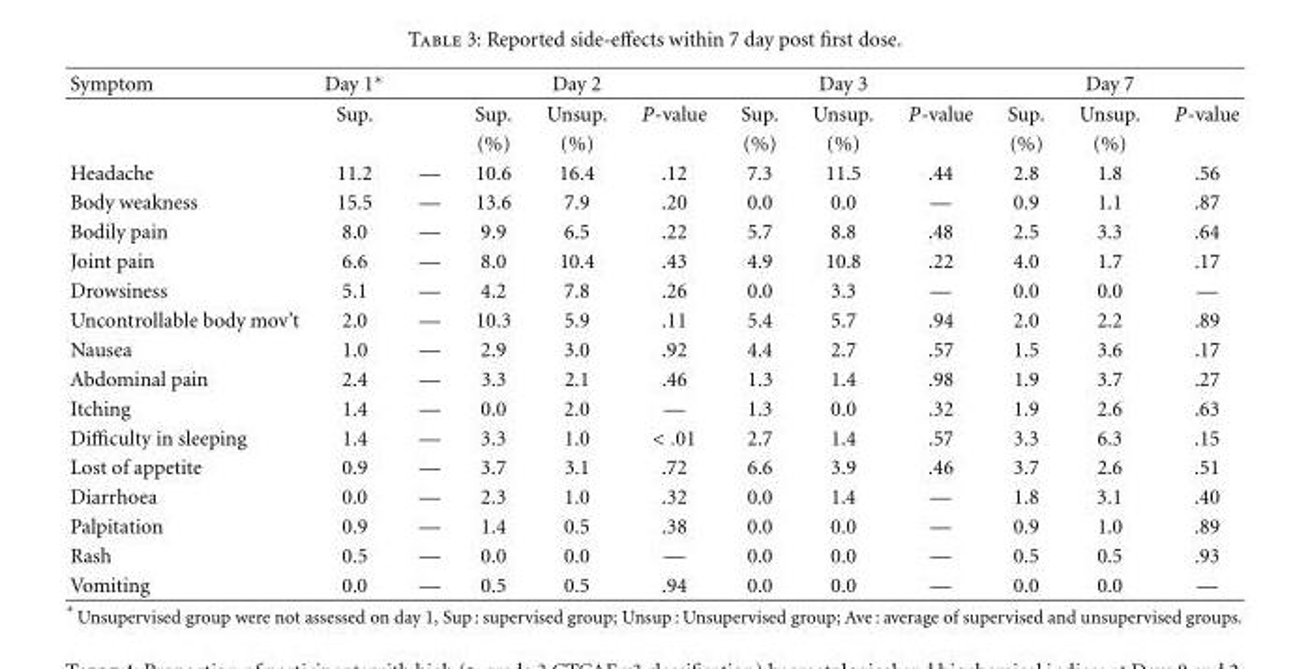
<table><thead><tr><td>Symptom</td><td>Day 1∗</td><td></td><td></td><td>Day 2</td><td></td><td></td><td>Day 3</td><td></td><td></td><td>Day 7</td><td></td></tr></thead><tbody><tr><td></td><td>Sup.</td><td></td><td>Sup.</td><td>Unsup.</td><td>P-value</td><td>Sup.</td><td>Unsup.</td><td>P-value</td><td>Sup.</td><td>Unsup.</td><td>P-value</td></tr><tr><td></td><td></td><td></td><td>(%)</td><td>(%)</td><td></td><td>(%)</td><td>(%)</td><td></td><td>(%)</td><td>(%)</td><td></td></tr><tr><td>Headache</td><td>11.2</td><td>—</td><td>10.6</td><td>16.4</td><td>.12</td><td>7.3</td><td>11.5</td><td>.44</td><td>2.8</td><td>1.8</td><td>.56</td></tr><tr><td>Body weakness</td><td>15.5</td><td>—</td><td>13.6</td><td>7.9</td><td>.20</td><td>0.0</td><td>0.0</td><td>—</td><td>0.9</td><td>1.1</td><td>.87</td></tr><tr><td>Bodily pain</td><td>8.0</td><td>—</td><td>9.9</td><td>6.5</td><td>.22</td><td>5.7</td><td>8.8</td><td>.48</td><td>2.5</td><td>3.3</td><td>.64</td></tr><tr><td>Joint pain</td><td>6.6</td><td>—</td><td>8.0</td><td>10.4</td><td>.43</td><td>4.9</td><td>10.8</td><td>.22</td><td>4.0</td><td>1.7</td><td>.17</td></tr><tr><td>Drowsiness</td><td>5.1</td><td>—</td><td>4.2</td><td>7.8</td><td>.26</td><td>0.0</td><td>3.3</td><td>—</td><td>0.0</td><td>0.0</td><td>—</td></tr><tr><td>Uncontrollable body mov’t</td><td>2.0</td><td>—</td><td>10.3</td><td>5.9</td><td>.11</td><td>5.4</td><td>5.7</td><td>.94</td><td>2.0</td><td>2.2</td><td>.89</td></tr><tr><td>Nausea</td><td>1.0</td><td>—</td><td>2.9</td><td>3.0</td><td>.92</td><td>4.4</td><td>2.7</td><td>.57</td><td>1.5</td><td>3.6</td><td>.17</td></tr><tr><td>Abdominal pain</td><td>2.4</td><td>—</td><td>3.3</td><td>2.1</td><td>.46</td><td>1.3</td><td>1.4</td><td>.98</td><td>1.9</td><td>3.7</td><td>.27</td></tr><tr><td>Itching</td><td>1.4</td><td>—</td><td>0.0</td><td>2.0</td><td>—</td><td>1.3</td><td>0.0</td><td>.32</td><td>1.9</td><td>2.6</td><td>.63</td></tr><tr><td>Difficulty in sleeping</td><td>1.4</td><td>—</td><td>3.3</td><td>1.0</td><td>&lt; .01</td><td>2.7</td><td>1.4</td><td>.57</td><td>3.3</td><td>6.3</td><td>.15</td></tr><tr><td>Lost of appetite</td><td>0.9</td><td>—</td><td>3.7</td><td>3.1</td><td>.72</td><td>6.6</td><td>3.9</td><td>.46</td><td>3.7</td><td>2.6</td><td>.51</td></tr><tr><td>Diarrhoea</td><td>0.0</td><td>—</td><td>2.3</td><td>1.0</td><td>.32</td><td>0.0</td><td>1.4</td><td>—</td><td>1.8</td><td>3.1</td><td>.40</td></tr><tr><td>Palpitation</td><td>0.9</td><td>—</td><td>1.4</td><td>0.5</td><td>.38</td><td>0.0</td><td>0.0</td><td>—</td><td>0.9</td><td>1.0</td><td>.89</td></tr><tr><td>Rash</td><td>0.5</td><td>—</td><td>0.0</td><td>0.0</td><td>—</td><td>0.0</td><td>0.0</td><td>—</td><td>0.5</td><td>0.5</td><td>.93</td></tr><tr><td>Vomiting</td><td>0.0</td><td>—</td><td>0.5</td><td>0.5</td><td>.94</td><td>0.0</td><td>0.0</td><td>—</td><td>0.0</td><td>0.0</td><td>—</td></tr></tbody></table>